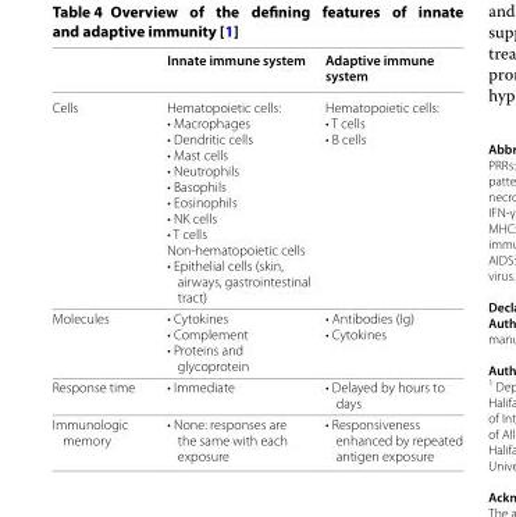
<table><thead><tr><td></td><td>Innate immune system</td><td>Adaptive immune system</td></tr></thead><tbody><tr><td>Cells</td><td>Hematopoietic cells: • Macrophages • Dendritic cells • Mast cells • Neutrophils • Basophils • Eosinophils • NK cells • T cells Non-hematopoietic cells • Epithelial cells (skin, airways, gastrointestinal tract)</td><td>Hematopoietic cells: • T cells • B cells</td></tr><tr><td>Molecules</td><td>• Cytokines • Complement • Proteins and glycoprotein</td><td>• Antibodies (Ig) • Cytokines</td></tr><tr><td>Response time</td><td>• Immediate</td><td>• Delayed by hours to days</td></tr><tr><td>Immunologic memory</td><td>• None: responses are the same with each exposure</td><td>• Responsiveness enhanced by repeated antigen exposure</td></tr></tbody></table>